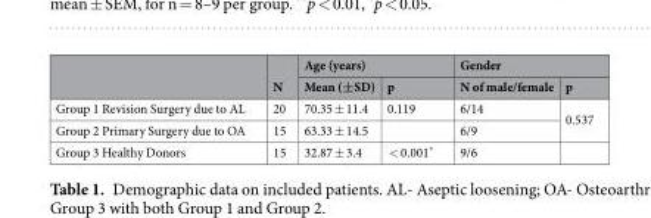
<table><thead><tr><td rowspan="2"></td><td rowspan="2">N</td><td colspan="2">Age (years)</td><td colspan="2">Gender</td></tr><tr><td>Mean (±SD)</td><td>p</td><td>N of male/female</td><td>p</td></tr></thead><tbody><tr><td>Group 1 Revision Surgery due to AL</td><td>20</td><td>70.35 ± 11.4</td><td>0.119</td><td>6/14</td><td rowspan="2">0.537</td></tr><tr><td>Group 2 Primary Surgery due to OA</td><td>15</td><td>63.33 ± 14.5</td><td></td><td>6/9</td></tr><tr><td>Group 3 Healthy Donors</td><td>15</td><td>32.87 ± 3.4</td><td>&lt; 0.001*</td><td>9/6</td><td></td></tr></tbody></table>